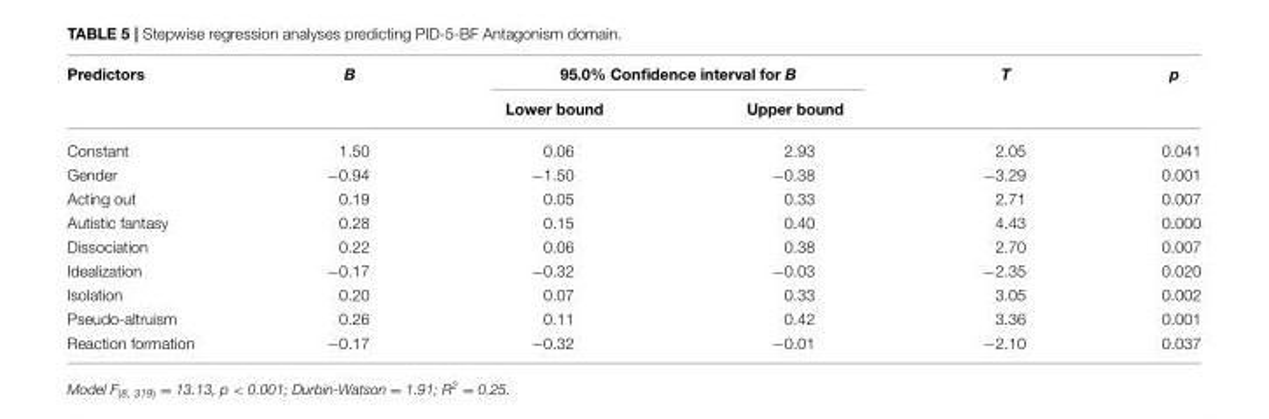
<table><thead><tr><td rowspan="2">Predictors</td><td rowspan="2">B</td><td colspan="2">95.0% Confidence interval for B</td><td rowspan="2">T</td><td rowspan="2">p</td></tr><tr><td>Lower bound</td><td>Upper bound</td></tr></thead><tbody><tr><td>Constant</td><td>1.50</td><td>0.06</td><td>2.93</td><td>2.05</td><td>0.041</td></tr><tr><td>Gender</td><td>−0.94</td><td>−1.50</td><td>−0.38</td><td>−3.29</td><td>0.001</td></tr><tr><td>Acting out</td><td>0.19</td><td>0.05</td><td>0.33</td><td>2.71</td><td>0.007</td></tr><tr><td>Autistic fantasy</td><td>0.28</td><td>0.15</td><td>0.40</td><td>4.43</td><td>0.000</td></tr><tr><td>Dissociation</td><td>0.22</td><td>0.06</td><td>0.38</td><td>2.70</td><td>0.007</td></tr><tr><td>Idealization</td><td>−0.17</td><td>−0.32</td><td>−0.03</td><td>−2.35</td><td>0.020</td></tr><tr><td>Isolation</td><td>0.20</td><td>0.07</td><td>0.33</td><td>3.05</td><td>0.002</td></tr><tr><td>Pseudo-altruism</td><td>0.26</td><td>0.11</td><td>0.42</td><td>3.36</td><td>0.001</td></tr><tr><td>Reaction formation</td><td>−0.17</td><td>−0.32</td><td>−0.01</td><td>−2.10</td><td>0.037</td></tr></tbody></table>